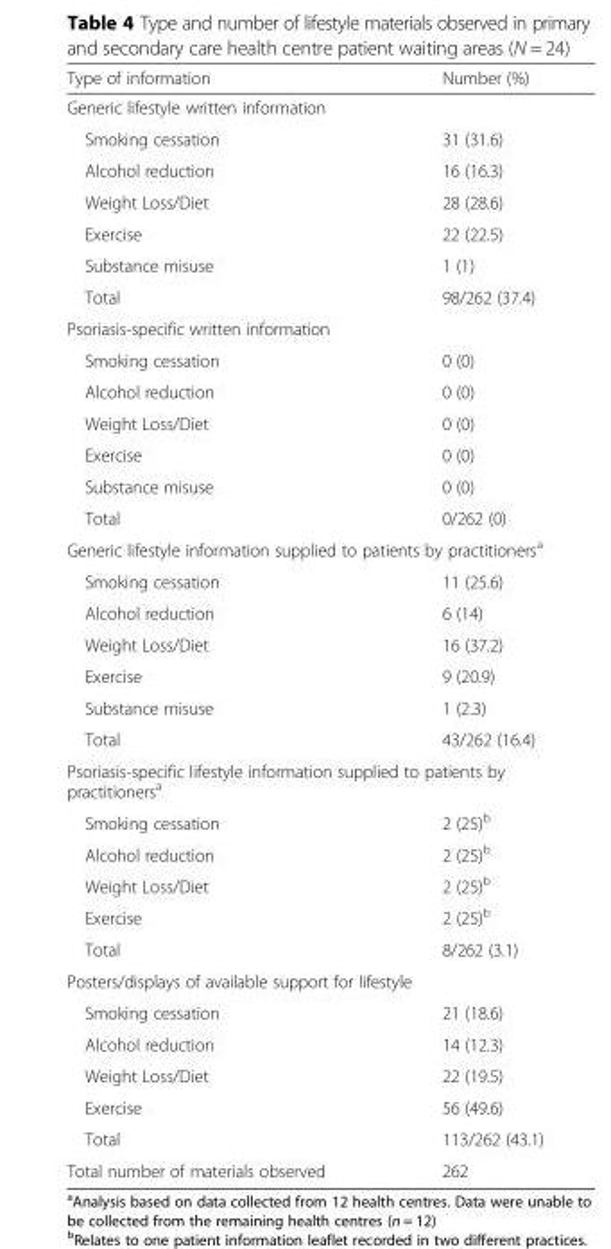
<table><thead><tr><td>Type of information</td><td>Number (%)</td></tr></thead><tbody><tr><td colspan="2">Generic lifestyle written information</td></tr><tr><td>Smoking cessation</td><td>31 (31.6)</td></tr><tr><td>Alcohol reduction</td><td>16 (16.3)</td></tr><tr><td>Weight Loss/Diet</td><td>28 (28.6)</td></tr><tr><td>Exercise</td><td>22 (22.5)</td></tr><tr><td>Substance misuse</td><td>1 (1)</td></tr><tr><td>Total</td><td>98/262 (37.4)</td></tr><tr><td colspan="2">Psoriasis-specific written information</td></tr><tr><td>Smoking cessation</td><td>0 (0)</td></tr><tr><td>Alcohol reduction</td><td>0 (0)</td></tr><tr><td>Weight Loss/Diet</td><td>0 (0)</td></tr><tr><td>Exercise</td><td>0 (0)</td></tr><tr><td>Substance misuse</td><td>0 (0)</td></tr><tr><td>Total</td><td>0/262 (0)</td></tr><tr><td colspan="2">Generic lifestyle information supplied to patients by practitioners<sup>a</sup></td></tr><tr><td>Smoking cessation</td><td>11 (25.6)</td></tr><tr><td>Alcohol reduction</td><td>6 (14)</td></tr><tr><td>Weight Loss/Diet</td><td>16 (37.2)</td></tr><tr><td>Exercise</td><td>9 (20.9)</td></tr><tr><td>Substance misuse</td><td>1 (2.3)</td></tr><tr><td>Total</td><td>43/262 (16.4)</td></tr><tr><td colspan="2">Psoriasis-specific lifestyle information supplied to patients by practitioners<sup>a</sup></td></tr><tr><td>Smoking cessation</td><td>2 (25)<sup>b</sup></td></tr><tr><td>Alcohol reduction</td><td>2 (25)<sup>b</sup></td></tr><tr><td>Weight Loss/Diet</td><td>2 (25)<sup>b</sup></td></tr><tr><td>Exercise</td><td>2 (25)<sup>b</sup></td></tr><tr><td>Total</td><td>8/262 (3.1)</td></tr><tr><td colspan="2">Posters/displays of available support for lifestyle</td></tr><tr><td>Smoking cessation</td><td>21 (18.6)</td></tr><tr><td>Alcohol reduction</td><td>14 (12.3)</td></tr><tr><td>Weight Loss/Diet</td><td>22 (19.5)</td></tr><tr><td>Exercise</td><td>56 (49.6)</td></tr><tr><td>Total</td><td>113/262 (43.1)</td></tr><tr><td>Total number of materials observed</td><td>262</td></tr></tbody></table>